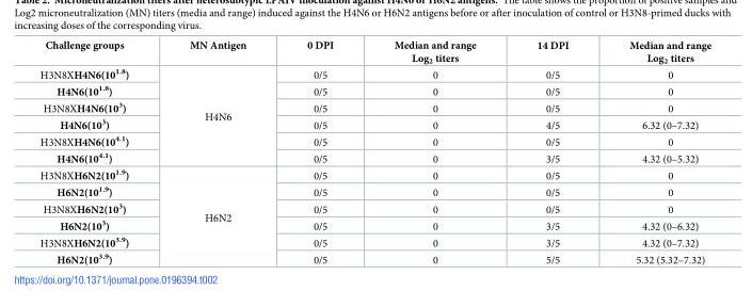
<table><thead><tr><td>Challenge groups</td><td>MN Antigen</td><td>0 DPI</td><td>Median and range Log<sub>2</sub> titers</td><td>14 DPI</td><td>Median and range Log<sub>2</sub> titers</td></tr></thead><tbody><tr><td>H3N8XH4N6(10<sup>1.8</sup>)</td><td rowspan="6">H4N6</td><td>0/5</td><td>0</td><td>0/5</td><td>0</td></tr><tr><td>H4N6(10<sup>1.8</sup>)</td><td>0/5</td><td>0</td><td>0/5</td><td>0</td></tr><tr><td>H3N8XH4N6(10<sup>3</sup>)</td><td>0/5</td><td>0</td><td>0/5</td><td>0</td></tr><tr><td>H4N6(10<sup>3</sup>)</td><td>0/5</td><td>0</td><td>4/5</td><td>6.32 (0–7.32)</td></tr><tr><td>H3N8XH4N6(10<sup>4.1</sup>)</td><td>0/5</td><td>0</td><td>0/5</td><td>0</td></tr><tr><td>H4N6(10<sup>4.1</sup>)</td><td>0/5</td><td>0</td><td>3/5</td><td>4.32 (0–5.32)</td></tr><tr><td>H3N8XH6N2(10<sup>1.9</sup>)</td><td rowspan="6">H6N2</td><td>0/5</td><td>0</td><td>0/5</td><td>0</td></tr><tr><td>H6N2(10<sup>1.9</sup>)</td><td>0/5</td><td>0</td><td>0/5</td><td>0</td></tr><tr><td>H3N8XH6N2(10<sup>3</sup>)</td><td>0/5</td><td>0</td><td>0/5</td><td>0</td></tr><tr><td>H6N2(10<sup>3</sup>)</td><td>0/5</td><td>0</td><td>3/5</td><td>4.32 (0–6.32)</td></tr><tr><td>H3N8XH6N2(10<sup>3.9</sup>)</td><td>0/5</td><td>0</td><td>3/5</td><td>4.32 (0–7.32)</td></tr><tr><td>H6N2(10<sup>3.9</sup>)</td><td>0/5</td><td>0</td><td>5/5</td><td>5.32 (5.32–7.32)</td></tr></tbody></table>